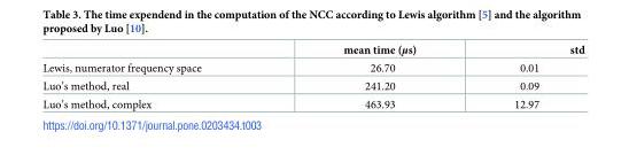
<table><thead><tr><td></td><td>mean time (μs)</td><td>std</td></tr></thead><tbody><tr><td>Lewis, numerator frequency space</td><td>26.70</td><td>0.01</td></tr><tr><td>Luo’s method, real</td><td>241.20</td><td>0.09</td></tr><tr><td>Luo’s method, complex</td><td>463.93</td><td>12.97</td></tr></tbody></table>